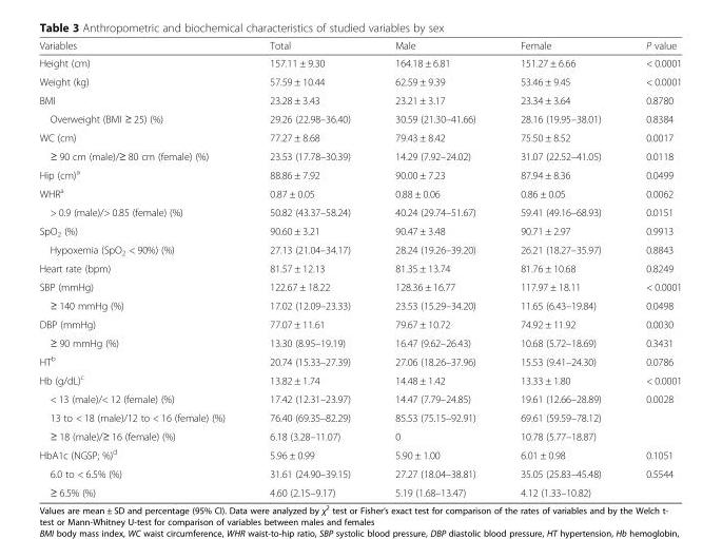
<table><thead><tr><td>Variables</td><td>Total</td><td>Male</td><td>Female</td><td>P value</td></tr></thead><tbody><tr><td>Height (cm)</td><td>157.11 ± 9.30</td><td>164.18 ± 6.81</td><td>151.27 ± 6.66</td><td>&lt; 0.0001</td></tr><tr><td>Weight (kg)</td><td>57.59 ± 10.44</td><td>62.59 ± 9.39</td><td>53.46 ± 9.45</td><td>&lt; 0.0001</td></tr><tr><td>BMI</td><td>23.28 ± 3.43</td><td>23.21 ± 3.17</td><td>23.34 ± 3.64</td><td>0.8780</td></tr><tr><td>Overweight (BMI ≥ 25) (%)</td><td>29.26 (22.98–36.40)</td><td>30.59 (21.30–41.66)</td><td>28.16 (19.95–38.01)</td><td>0.8384</td></tr><tr><td>WC (cm)</td><td>77.27 ± 8.68</td><td>79.43 ± 8.42</td><td>75.50 ± 8.52</td><td>0.0017</td></tr><tr><td>≥ 90 cm (male)/≥ 80 cm (female) (%)</td><td>23.53 (17.78–30.39)</td><td>14.29 (7.92–24.02)</td><td>31.07 (22.52–41.05)</td><td>0.0118</td></tr><tr><td>Hip (cm)<sup>a</sup></td><td>88.86 ± 7.92</td><td>90.00 ± 7.23</td><td>87.94 ± 8.36</td><td>0.0499</td></tr><tr><td>WHR<sup>a</sup></td><td>0.87 ± 0.05</td><td>0.88 ± 0.06</td><td>0.86 ± 0.05</td><td>0.0062</td></tr><tr><td>&gt; 0.9 (male)/&gt; 0.85 (female) (%)</td><td>50.82 (43.37–58.24)</td><td>40.24 (29.74–51.67)</td><td>59.41 (49.16–68.93)</td><td>0.0151</td></tr><tr><td>SpO<sub>2</sub> (%)</td><td>90.60 ± 3.21</td><td>90.47 ± 3.48</td><td>90.71 ± 2.97</td><td>0.9913</td></tr><tr><td>Hypoxemia (SpO<sub>2</sub> &lt; 90%) (%)</td><td>27.13 (21.04–34.17)</td><td>28.24 (19.26–39.20)</td><td>26.21 (18.27–35.97)</td><td>0.8843</td></tr><tr><td>Heart rate (bpm)</td><td>81.57 ± 12.13</td><td>81.35 ± 13.74</td><td>81.76 ± 10.68</td><td>0.8249</td></tr><tr><td>SBP (mmHg)</td><td>122.67 ± 18.22</td><td>128.36 ± 16.77</td><td>117.97 ± 18.11</td><td>&lt; 0.0001</td></tr><tr><td>≥ 140 mmHg (%)</td><td>17.02 (12.09–23.33)</td><td>23.53 (15.29–34.20)</td><td>11.65 (6.43–19.84)</td><td>0.0498</td></tr><tr><td>DBP (mmHg)</td><td>77.07 ± 11.61</td><td>79.67 ± 10.72</td><td>74.92 ± 11.92</td><td>0.0030</td></tr><tr><td>≥ 90 mmHg (%)</td><td>13.30 (8.95–19.19)</td><td>16.47 (9.62–26.43)</td><td>10.68 (5.72–18.69)</td><td>0.3431</td></tr><tr><td>HT<sup>b</sup></td><td>20.74 (15.33–27.39)</td><td>27.06 (18.26–37.96)</td><td>15.53 (9.41–24.30)</td><td>0.0786</td></tr><tr><td>Hb (g/dL)<sup>c</sup></td><td>13.82 ± 1.74</td><td>14.48 ± 1.42</td><td>13.33 ± 1.80</td><td>&lt; 0.0001</td></tr><tr><td>&lt; 13 (male)/&lt; 12 (female) (%)</td><td>17.42 (12.31–23.97)</td><td>14.47 (7.79–24.85)</td><td>19.61 (12.66–28.89)</td><td>0.0028</td></tr><tr><td>13 to &lt; 18 (male)/12 to &lt; 16 (female) (%)</td><td>76.40 (69.35–82.29)</td><td>85.53 (75.15–92.91)</td><td>69.61 (59.59–78.12)</td><td></td></tr><tr><td>≥ 18 (male)/≥ 16 (female) (%)</td><td>6.18 (3.28–11.07)</td><td>0</td><td>10.78 (5.77–18.87)</td><td></td></tr><tr><td>HbA1c (NGSP; %)<sup>d</sup></td><td>5.96 ± 0.99</td><td>5.90 ± 1.00</td><td>6.01 ± 0.98</td><td>0.1051</td></tr><tr><td>6.0 to &lt; 6.5% (%)</td><td>31.61 (24.90–39.15)</td><td>27.27 (18.04–38.81)</td><td>35.05 (25.83–45.48)</td><td>0.5544</td></tr><tr><td>≥ 6.5% (%)</td><td>4.60 (2.15–9.17)</td><td>5.19 (1.68–13.47)</td><td>4.12 (1.33–10.82)</td><td></td></tr></tbody></table>